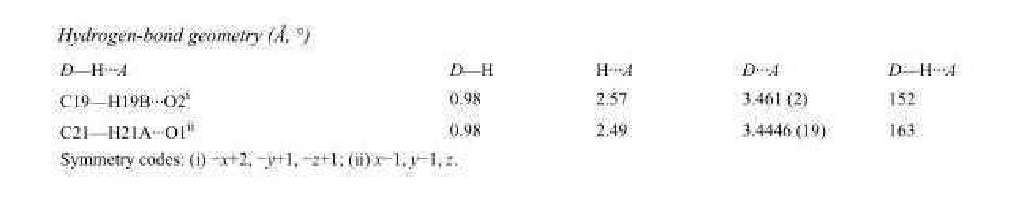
<table><tbody><tr><td>D—H···A</td><td>D—H</td><td>H···A</td><td>D···A</td><td>D—H···A</td></tr><tr><td>C19—H19B···O2<sup>i</sup></td><td>0.98</td><td>2.57</td><td>3.461 (2)</td><td>152</td></tr><tr><td>C21—H21A···O1<sup>ii</sup></td><td>0.98</td><td>2.49</td><td>3.4446 (19)</td><td>163</td></tr></tbody></table>